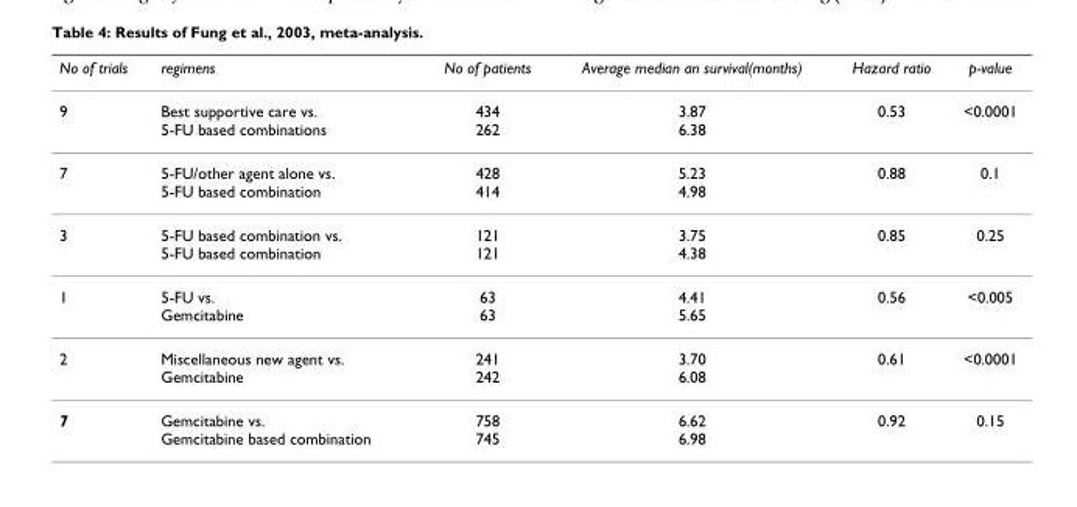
<table><thead><tr><td>No of trials</td><td>regimens</td><td>No of patients</td><td>Average median an survival(months)</td><td>Hazard ratio</td><td>p-value</td></tr></thead><tbody><tr><td>9</td><td>Best supportive care vs. 5-FU based combinations</td><td>434 262</td><td>3.87 6.38</td><td>0.53</td><td>&lt;0.0001</td></tr><tr><td>7</td><td>5-FU/other agent alone vs. 5-FU based combination</td><td>428 414</td><td>5.23 4.98</td><td>0.88</td><td>0.1</td></tr><tr><td>3</td><td>5-FU based combination vs. 5-FU based combination</td><td>121 121</td><td>3.75 4.38</td><td>0.85</td><td>0.25</td></tr><tr><td>1</td><td>5-FU vs. Gemcitabine</td><td>63 63</td><td>4.41 5.65</td><td>0.56</td><td>&lt;0.005</td></tr><tr><td>2</td><td>Miscellaneous new agent vs. Gemcitabine</td><td>241 242</td><td>3.70 6.08</td><td>0.61</td><td>&lt;0.0001</td></tr><tr><td>7</td><td>Gemcitabine vs. Gemcitabine based combination</td><td>758 745</td><td>6.62 6.98</td><td>0.92</td><td>0.15</td></tr></tbody></table>